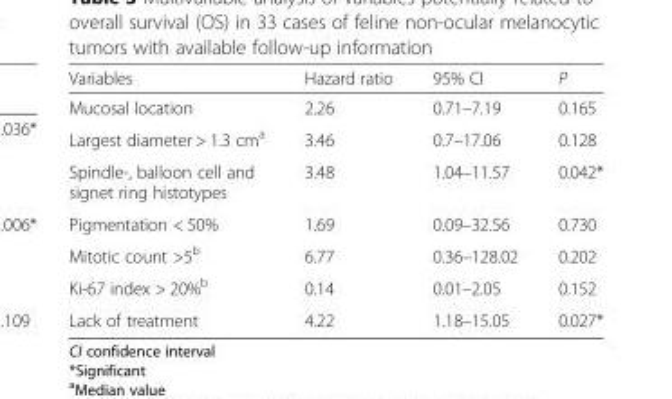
<table><thead><tr><td>Variables</td><td>Hazard ratio</td><td>95% CI</td><td>P</td></tr></thead><tbody><tr><td>Mucosal location</td><td>2.26</td><td>0.71–7.19</td><td>0.165</td></tr><tr><td>Largest diameter &gt; 1.3 cm<sup>a</sup></td><td>3.46</td><td>0.7–17.06</td><td>0.128</td></tr><tr><td>Spindle-, balloon cell and signet ring histotypes</td><td>3.48</td><td>1.04–11.57</td><td>0.042*</td></tr><tr><td>Pigmentation &lt; 50%</td><td>1.69</td><td>0.09–32.56</td><td>0.730</td></tr><tr><td>Mitotic count &gt;5<sup>b</sup></td><td>6.77</td><td>0.36–128.02</td><td>0.202</td></tr><tr><td>Ki-67 index &gt; 20%<sup>b</sup></td><td>0.14</td><td>0.01–2.05</td><td>0.152</td></tr><tr><td>Lack of treatment</td><td>4.22</td><td>1.18–15.05</td><td>0.027*</td></tr></tbody></table>